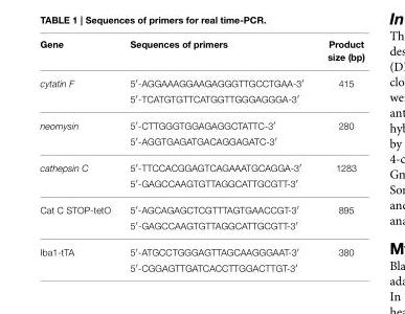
<table><thead><tr><td>Gene</td><td>Sequences of primers</td><td>Product size (bp)</td></tr></thead><tbody><tr><td rowspan="2">cytatin F</td><td>5′-AGGAAAGGAAGAGGGTTGCCTGAA-3′</td><td>415</td></tr><tr><td>5′-TCATGTGTTCATGGTTGGGAGGGA-3′</td><td></td></tr><tr><td rowspan="2">neomysin</td><td>5′-CTTGGGTGGAGAGGCTATTC-3′</td><td>280</td></tr><tr><td>5′-AGGTGAGATGACAGGAGATC-3′</td><td></td></tr><tr><td rowspan="2">cathepsin C</td><td>5′-TTCCACGGAGTCAGAAATGCAGGA-3′</td><td>1283</td></tr><tr><td>5′-GAGCCAAGTGTTAGGCATTGCGTT-3′</td><td></td></tr><tr><td rowspan="2">Cat C STOP-tetO</td><td>5′-AGCAGAGCTCGTTTAGTGAACCGT-3′</td><td>895</td></tr><tr><td>5′-GAGCCAAGTGTTAGGCATTGCGTT-3′</td><td></td></tr><tr><td rowspan="2">Iba1-tTA</td><td>5′-ATGCCTGGGAGTTAGCAAGGGAAT-3′</td><td>380</td></tr><tr><td>5′-CGGAGTTGATCACCTTGGACTTGT-3′</td><td></td></tr></tbody></table>